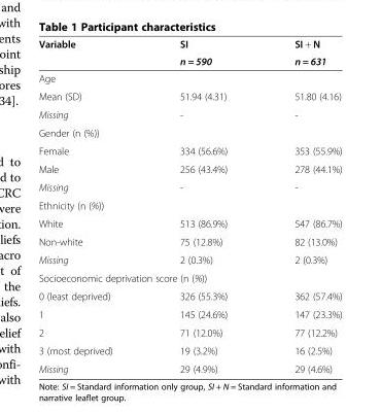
<table><thead><tr><td rowspan="2">Variable</td><td rowspan="2">SI n = 590</td><td rowspan="2">SI + N n = 631</td></tr><tr></tr></thead><tbody><tr><td colspan="3">Age</td></tr><tr><td>Mean (SD)</td><td>51.94 (4.31)</td><td>51.80 (4.16)</td></tr><tr><td>Missing</td><td>-</td><td>-</td></tr><tr><td colspan="3">Gender (n (%))</td></tr><tr><td>Female</td><td>334 (56.6%)</td><td>353 (55.9%)</td></tr><tr><td>Male</td><td>256 (43.4%)</td><td>278 (44.1%)</td></tr><tr><td>Missing</td><td>-</td><td>-</td></tr><tr><td colspan="3">Ethnicity (n (%))</td></tr><tr><td>White</td><td>513 (86.9%)</td><td>547 (86.7%)</td></tr><tr><td>Non-white</td><td>75 (12.8%)</td><td>82 (13.0%)</td></tr><tr><td>Missing</td><td>2 (0.3%)</td><td>2 (0.3%)</td></tr><tr><td colspan="3">Socioeconomic deprivation score (n (%))</td></tr><tr><td>0 (least deprived)</td><td>326 (55.3%)</td><td>362 (57.4%)</td></tr><tr><td>1</td><td>145 (24.6%)</td><td>147 (23.3%)</td></tr><tr><td>2</td><td>71 (12.0%)</td><td>77 (12.2%)</td></tr><tr><td>3 (most deprived)</td><td>19 (3.2%)</td><td>16 (2.5%)</td></tr><tr><td>Missing</td><td>29 (4.9%)</td><td>29 (4.6%)</td></tr></tbody></table>